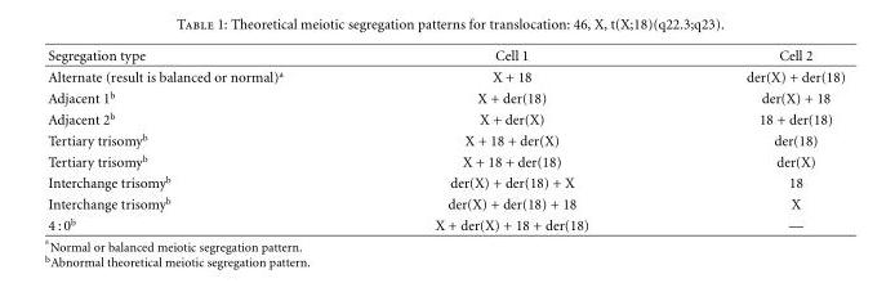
<table><thead><tr><td>Segregation type</td><td>Cell 1</td><td>Cell 2</td></tr></thead><tbody><tr><td>Alternate (result is balanced or normal)<sup>a</sup></td><td>X + 18</td><td>der(X) + der(18)</td></tr><tr><td>Adjacent 1<sup>b</sup></td><td>X + der(18)</td><td>der(X) + 18</td></tr><tr><td>Adjacent 2<sup>b</sup></td><td>X + der(X)</td><td>18 + der(18)</td></tr><tr><td>Tertiary trisomy<sup>b</sup></td><td>X + 18 + der(X)</td><td>der(18)</td></tr><tr><td>Tertiary trisomy<sup>b</sup></td><td>X + 18 + der(18)</td><td>der(X)</td></tr><tr><td>Interchange trisomy<sup>b</sup></td><td>der(X) + der(18) + X</td><td>18</td></tr><tr><td>Interchange trisomy<sup>b</sup></td><td>der(X) + der(18) + 18</td><td>X</td></tr><tr><td>4 : 0<sup>b</sup></td><td>X + der(X) + 18 + der(18)</td><td>—</td></tr></tbody></table>